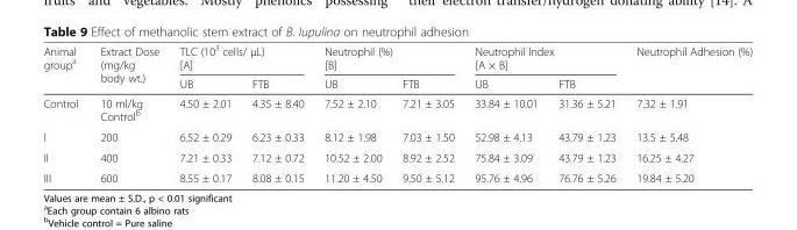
<table><thead><tr><td rowspan="2">Animal group<sup>a</sup></td><td rowspan="2">Extract Dose (mg/kg body wt.)</td><td colspan="2">TLC (10<sup>3</sup> cells/ μL) [A]</td><td colspan="2">Neutrophil (%) [B]</td><td colspan="2">Neutrophil Index [A × B]</td><td rowspan="2">Neutrophil Adhesion (%)</td></tr><tr><td>UB</td><td>FTB</td><td>UB</td><td>FTB</td><td>UB</td><td>FTB</td></tr></thead><tbody><tr><td>Control</td><td>10 ml/kg Control<sup>b</sup></td><td>4.50 ± 2.01</td><td>4.35 ± 8.40</td><td>7.52 ± 2.10</td><td>7.21 ± 3.05</td><td>33.84 ± 10.01</td><td>31.36 ± 5.21</td><td>7.32 ± 1.91</td></tr><tr><td>I</td><td>200</td><td>6.52 ± 0.29</td><td>6.23 ± 0.33</td><td>8.12 ± 1.98</td><td>7.03 ± 1.50</td><td>52.98 ± 4.13</td><td>43.79 ± 1.23</td><td>13.5 ± 5.48</td></tr><tr><td>II</td><td>400</td><td>7.21 ± 0.33</td><td>7.12 ± 0.72</td><td>10.52 ± 2.00</td><td>8.92 ± 2.52</td><td>75.84 ± 3.09</td><td>43.79 ± 1.23</td><td>16.25 ± 4.27</td></tr><tr><td>III</td><td>600</td><td>8.55 ± 0.17</td><td>8.08 ± 0.15</td><td>11.20 ± 4.50</td><td>9.50 ± 5.12</td><td>95.76 ± 4.96</td><td>76.76 ± 5.26</td><td>19.84 ± 5.20</td></tr></tbody></table>